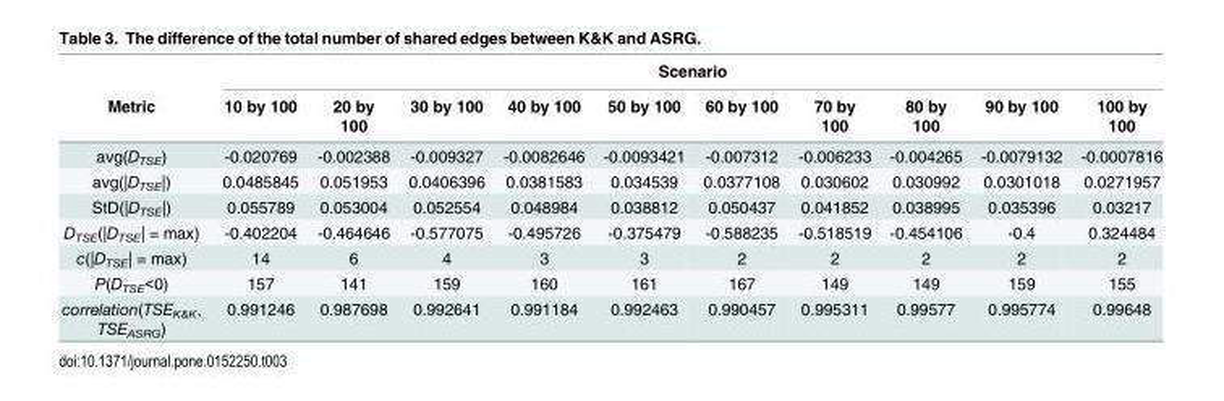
<table><thead><tr><td rowspan="2">Metric</td><td colspan="10">Scenario</td></tr><tr><td>10 by 100</td><td>20 by 100</td><td>30 by 100</td><td>40 by 100</td><td>50 by 100</td><td>60 by 100</td><td>70 by 100</td><td>80 by 100</td><td>90 by 100</td><td>100 by 100</td></tr></thead><tbody><tr><td>avg(D<sub>TSE</sub>)</td><td>-0.020769</td><td>-0.002388</td><td>-0.009327</td><td>-0.0082646</td><td>-0.0093421</td><td>-0.007312</td><td>-0.006233</td><td>-0.004265</td><td>-0.0079132</td><td>-0.0007816</td></tr><tr><td>avg(|D<sub>TSE</sub>|)</td><td>0.0485845</td><td>0.051953</td><td>0.0406396</td><td>0.0381583</td><td>0.034539</td><td>0.0377108</td><td>0.030602</td><td>0.030992</td><td>0.0301018</td><td>0.0271957</td></tr><tr><td>StD(|D<sub>TSE</sub>|)</td><td>0.055789</td><td>0.053004</td><td>0.052554</td><td>0.048984</td><td>0.038812</td><td>0.050437</td><td>0.041852</td><td>0.038995</td><td>0.035396</td><td>0.03217</td></tr><tr><td>D<sub>TSE</sub>(|D<sub>TSE</sub>| = max)</td><td>-0.402204</td><td>-0.464646</td><td>-0.577075</td><td>-0.495726</td><td>-0.375479</td><td>-0.588235</td><td>-0.518519</td><td>-0.454106</td><td>-0.4</td><td>0.324484</td></tr><tr><td>c(|D<sub>TSE</sub>| = max)</td><td>14</td><td>6</td><td>4</td><td>3</td><td>3</td><td>2</td><td>2</td><td>2</td><td>2</td><td>2</td></tr><tr><td>P(D<sub>TSE</sub>&lt;0)</td><td>157</td><td>141</td><td>159</td><td>160</td><td>161</td><td>167</td><td>149</td><td>149</td><td>159</td><td>155</td></tr><tr><td>correlation(TSE<sub>K&amp;K</sub>, TSE<sub>ASRG</sub>)</td><td>0.991246</td><td>0.987698</td><td>0.992641</td><td>0.991184</td><td>0.992463</td><td>0.990457</td><td>0.995311</td><td>0.99577</td><td>0.995774</td><td>0.99648</td></tr></tbody></table>